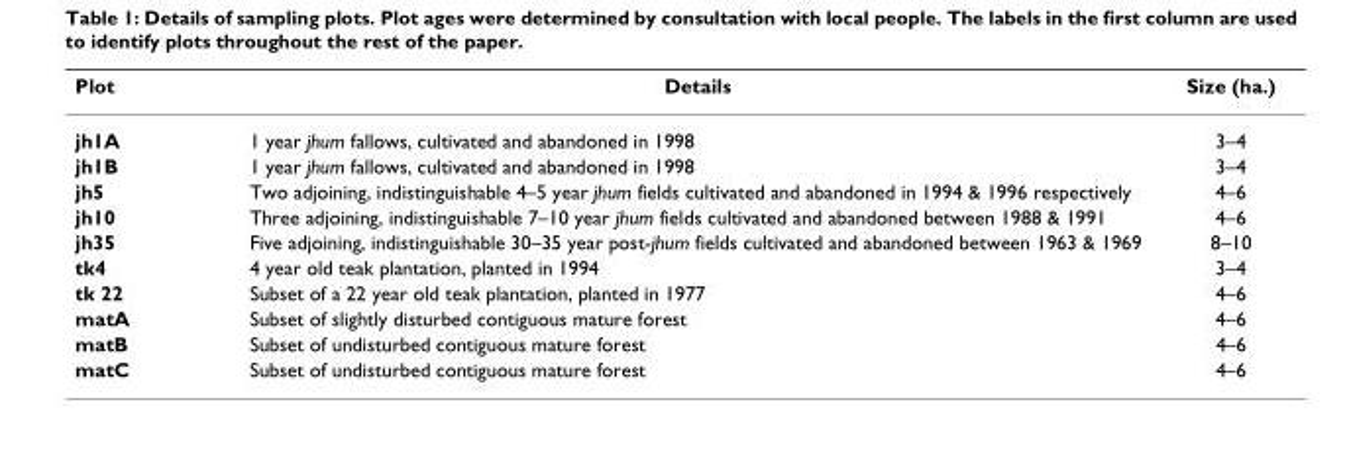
<table><thead><tr><td>Plot</td><td>Details</td><td>Size (ha.)</td></tr></thead><tbody><tr><td>jh1A</td><td>1 year jhum fallows, cultivated and abandoned in 1998</td><td>3–4</td></tr><tr><td>jh1B</td><td>1 year jhum fallows, cultivated and abandoned in 1998</td><td>3–4</td></tr><tr><td>jh5</td><td>Two adjoining, indistinguishable 4–5 year jhum fields cultivated and abandoned in 1994 &amp; 1996 respectively</td><td>4–6</td></tr><tr><td>jh10</td><td>Three adjoining, indistinguishable 7–10 year jhum fields cultivated and abandoned between 1988 &amp; 1991</td><td>4–6</td></tr><tr><td>jh35</td><td>Five adjoining, indistinguishable 30–35 year post-jhum fields cultivated and abandoned between 1963 &amp; 1969</td><td>8–10</td></tr><tr><td>tk4</td><td>4 year old teak plantation, planted in 1994</td><td>3–4</td></tr><tr><td>tk 22</td><td>Subset of a 22 year old teak plantation, planted in 1977</td><td>4–6</td></tr><tr><td>matA</td><td>Subset of slightly disturbed contiguous mature forest</td><td>4–6</td></tr><tr><td>matB</td><td>Subset of undisturbed contiguous mature forest</td><td>4–6</td></tr><tr><td>matC</td><td>Subset of undisturbed contiguous mature forest</td><td>4–6</td></tr></tbody></table>